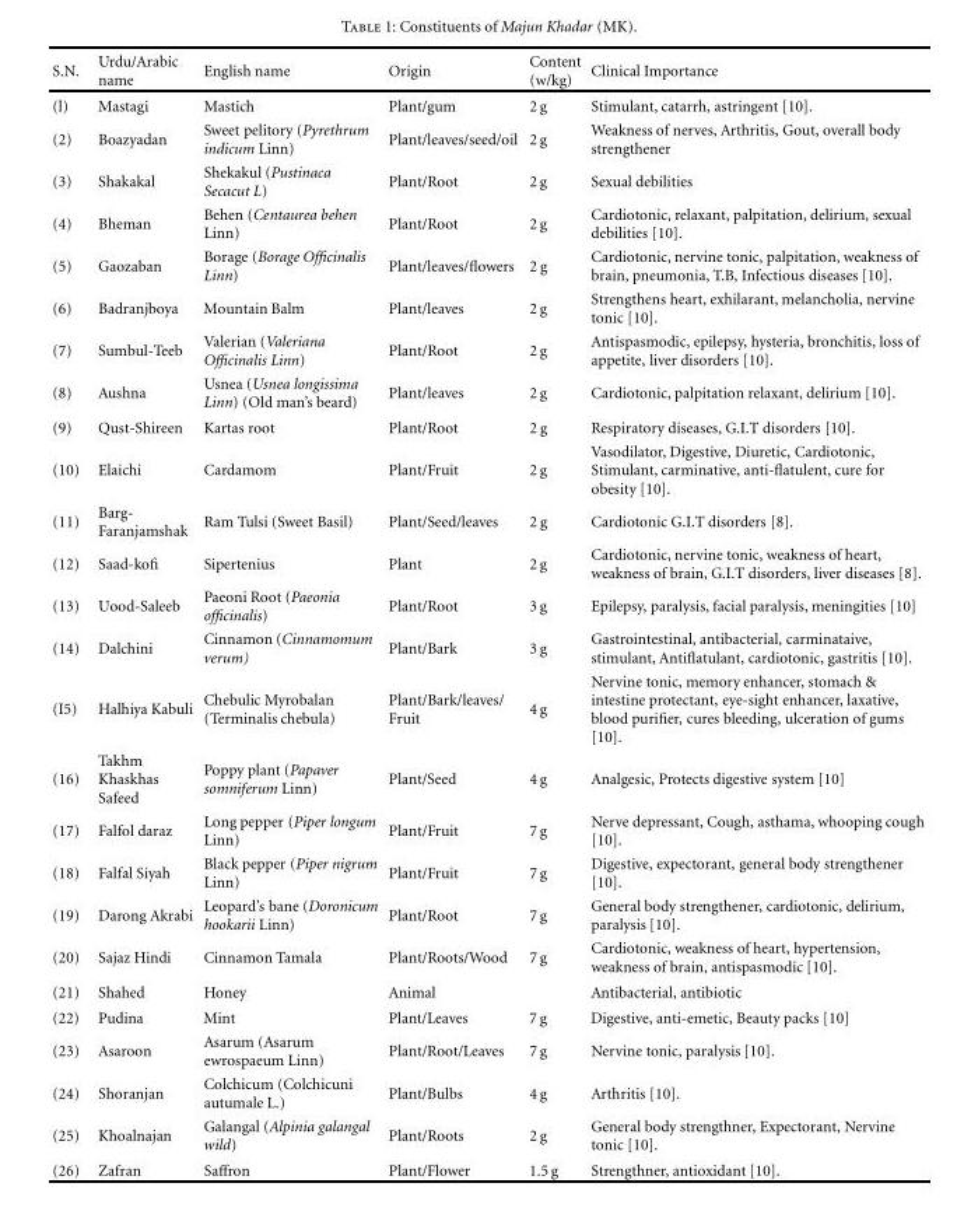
<table><thead><tr><td>S.N.</td><td>Urdu/Arabic name</td><td>English name</td><td>Origin</td><td>Content (w/kg)</td><td>Clinical Importance</td></tr></thead><tbody><tr><td>(l)</td><td>Mastagi</td><td>Mastich</td><td>Plant/gum</td><td>2 g</td><td>Stimulant, catarrh, astringent [10].</td></tr><tr><td>(2)</td><td>Boazyadan</td><td>Sweet pelitory (Pyrethrum indicum Linn)</td><td>Plant/leaves/seed/oil</td><td>2 g</td><td>Weakness of nerves, Arthritis, Gout, overall body strengthener</td></tr><tr><td>(3)</td><td>Shakakal</td><td>Shekakul (Pustinaca Secacut L)</td><td>Plant/Root</td><td>2 g</td><td>Sexual debilities</td></tr><tr><td>(4)</td><td>Bheman</td><td>Behen (Centaurea behen Linn)</td><td>Plant/Root</td><td>2 g</td><td>Cardiotonic, relaxant, palpitation, delirium, sexual debilities [10].</td></tr><tr><td>(5)</td><td>Gaozaban</td><td>Borage (Borage Officinalis Linn)</td><td>Plant/leaves/flowers</td><td>2 g</td><td>Cardiotonic, nervine tonic, palpitation, weakness of brain, pneumonia, T.B, Infectious diseases [10].</td></tr><tr><td>(6)</td><td>Badranjboya</td><td>Mountain Balm</td><td>Plant/leaves</td><td>2 g</td><td>Strengthens heart, exhilarant, melancholia, nervine tonic [10].</td></tr><tr><td>(7)</td><td>Sumbul-Teeb</td><td>Valerian (Valeriana Officinalis Linn)</td><td>Plant/Root</td><td>2 g</td><td>Antispasmodic, epilepsy, hysteria, bronchitis, loss of appetite, liver disorders [10].</td></tr><tr><td>(8)</td><td>Aushna</td><td>Usnea (Usnea longissima Linn) (Old man’s beard)</td><td>Plant/leaves</td><td>2 g</td><td>Cardiotonic, palpitation relaxant, delirium [10].</td></tr><tr><td>(9)</td><td>Qust-Shireen</td><td>Kartas root</td><td>Plant/Root</td><td>2 g</td><td>Respiratory diseases, G.I.T disorders [10].</td></tr><tr><td>(10)</td><td>Elaichi</td><td>Cardamom</td><td>Plant/Fruit</td><td>2 g</td><td>Vasodilator, Digestive, Diuretic, Cardiotonic, Stimulant, carminative, anti-flatulent, cure for obesity [10].</td></tr><tr><td>(11)</td><td>Barg- Faranjamshak</td><td>Ram Tulsi (Sweet Basil)</td><td>Plant/Seed/leaves</td><td>2 g</td><td>Cardiotonic G.I.T disorders [8].</td></tr><tr><td>(12)</td><td>Saad-kofi</td><td>Sipertenius</td><td>Plant</td><td>2 g</td><td>Cardiotonic, nervine tonic, weakness of heart, weakness of brain, G.I.T disorders, liver diseases [8].</td></tr><tr><td>(13)</td><td>Uood-Saleeb</td><td>Paeoni Root (Paeonia officinalis)</td><td>Plant/Root</td><td>3 g</td><td>Epilepsy, paralysis, facial paralysis, meningities [10]</td></tr><tr><td>(14)</td><td>Dalchini</td><td>Cinnamon (Cinnamomum verum)</td><td>Plant/Bark</td><td>3 g</td><td>Gastrointestinal, antibacterial, carminataive, stimulant, Antiflatulant, cardiotonic, gastritis [10].</td></tr><tr><td>(I5)</td><td>Halhiya Kabuli</td><td>Chebulic Myrobalan (Terminalis chebula)</td><td>Plant/Bark/leaves/ Fruit</td><td>4 g</td><td>Nervine tonic, memory enhancer, stomach &amp; intestine protectant, eye-sight enhancer, laxative, blood purifier, cures bleeding, ulceration of gums [10].</td></tr><tr><td>(16)</td><td>Takhm Khaskhas Safeed</td><td>Poppy plant (Papaver somniferum Linn)</td><td>Plant/Seed</td><td>4 g</td><td>Analgesic, Protects digestive system [10]</td></tr><tr><td>(17)</td><td>Falfol daraz</td><td>Long pepper (Piper longum Linn)</td><td>Plant/Fruit</td><td>7 g</td><td>Nerve depressant, Cough, asthama, whooping cough [10].</td></tr><tr><td>(18)</td><td>Falfal Siyah</td><td>Black pepper (Piper nigrum Linn)</td><td>Plant/Fruit</td><td>7 g</td><td>Digestive, expectorant, general body strengthener [10].</td></tr><tr><td>(19)</td><td>Darong Akrabi</td><td>Leopard’s bane (Doronicum hookarii Linn)</td><td>Plant/Root</td><td>7 g</td><td>General body strengthener, cardiotonic, delirium, paralysis [10].</td></tr><tr><td>(20)</td><td>Sajaz Hindi</td><td>Cinnamon Tamala</td><td>Plant/Roots/Wood</td><td>7 g</td><td>Cardiotonic, weakness of heart, hypertension, weakness of brain, antispasmodic [10].</td></tr><tr><td>(21)</td><td>Shahed</td><td>Honey</td><td>Animal</td><td></td><td>Antibacterial, antibiotic</td></tr><tr><td>(22)</td><td>Pudina</td><td>Mint</td><td>Plant/Leaves</td><td>7 g</td><td>Digestive, anti-emetic, Beauty packs [10]</td></tr><tr><td>(23)</td><td>Asaroon</td><td>Asarum (Asarum ewrospaeum Linn)</td><td>Plant/Root/Leaves</td><td>7 g</td><td>Nervine tonic, paralysis [10].</td></tr><tr><td>(24)</td><td>Shoranjan</td><td>Colchicum (Colchicuni autumale L.)</td><td>Plant/Bulbs</td><td>4 g</td><td>Arthritis [10].</td></tr><tr><td>(25)</td><td>Khoalnajan</td><td>Galangal (Alpinia galangal wild)</td><td>Plant/Roots</td><td>2 g</td><td>General body strengthner, Expectorant, Nervine tonic [10].</td></tr><tr><td>(26)</td><td>Zafran</td><td>Saffron</td><td>Plant/Flower</td><td>1.5 g</td><td>Strengthner, antioxidant [10].</td></tr></tbody></table>